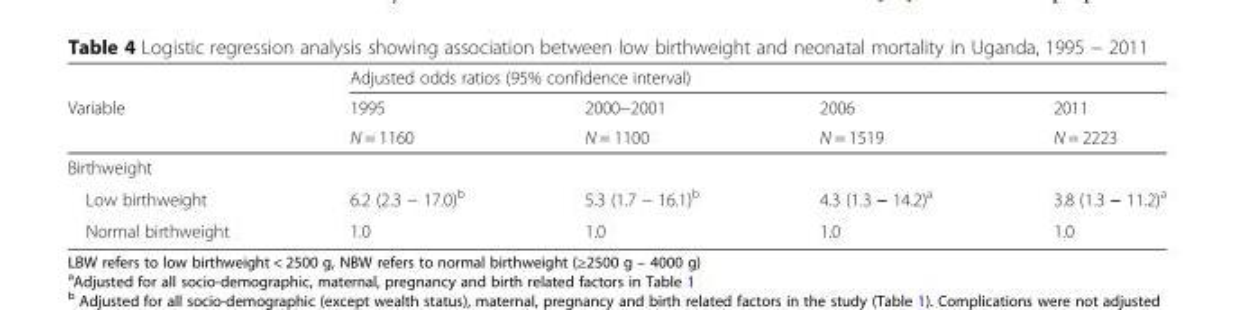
<table><thead><tr><td rowspan="3">Variable</td><td colspan="4">Adjusted odds ratios (95% confidence interval)</td></tr><tr><td rowspan="2">1995 N = 1160</td><td rowspan="2">2000−2001 N = 1100</td><td rowspan="2">2006 N = 1519</td><td rowspan="2">2011 N = 2223</td></tr><tr></tr></thead><tbody><tr><td colspan="5">Birthweight</td></tr><tr><td>Low birthweight</td><td>6.2 (2.3 − 17.0)<sup>b</sup></td><td>5.3 (1.7 − 16.1)<sup>b</sup></td><td>4.3 (1.3 − 14.2)<sup>a</sup></td><td>3.8 (1.3 − 11.2)<sup>a</sup></td></tr><tr><td>Normal birthweight</td><td>1.0</td><td>1.0</td><td>1.0</td><td>1.0</td></tr></tbody></table>